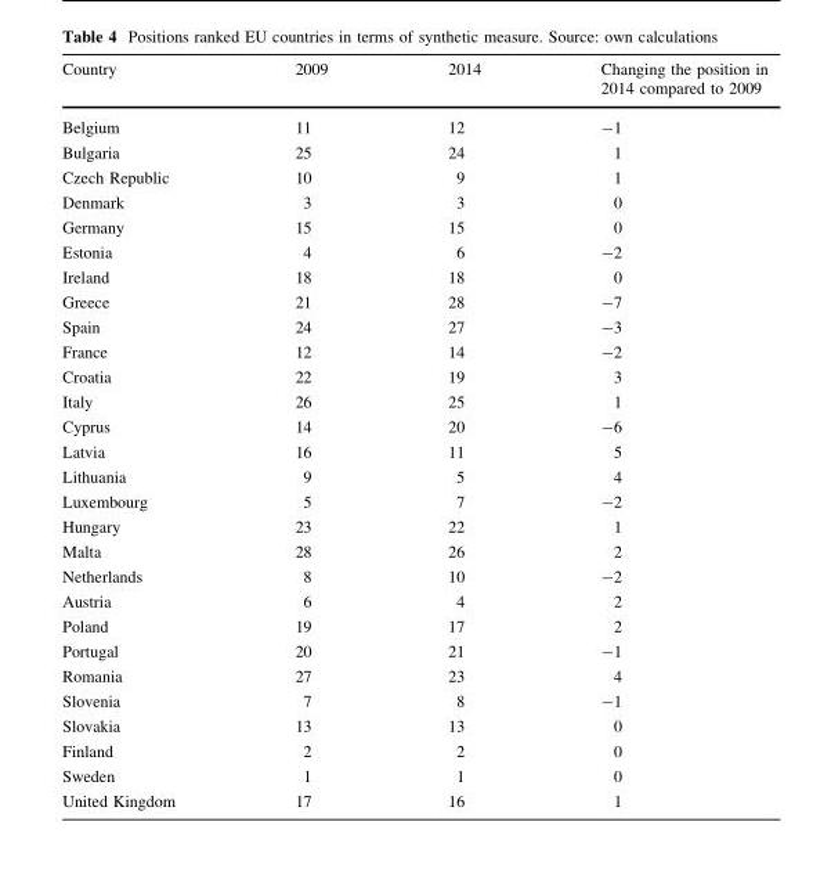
<table><thead><tr><td>Country</td><td>2009</td><td>2014</td><td>Changing the position in 2014 compared to 2009</td></tr></thead><tbody><tr><td>Belgium</td><td>11</td><td>12</td><td>-1</td></tr><tr><td>Bulgaria</td><td>25</td><td>24</td><td>1</td></tr><tr><td>Czech Republic</td><td>10</td><td>9</td><td>1</td></tr><tr><td>Denmark</td><td>3</td><td>3</td><td>0</td></tr><tr><td>Germany</td><td>15</td><td>15</td><td>0</td></tr><tr><td>Estonia</td><td>4</td><td>6</td><td>-2</td></tr><tr><td>Ireland</td><td>18</td><td>18</td><td>0</td></tr><tr><td>Greece</td><td>21</td><td>28</td><td>-7</td></tr><tr><td>Spain</td><td>24</td><td>27</td><td>-3</td></tr><tr><td>France</td><td>12</td><td>14</td><td>-2</td></tr><tr><td>Croatia</td><td>22</td><td>19</td><td>3</td></tr><tr><td>Italy</td><td>26</td><td>25</td><td>1</td></tr><tr><td>Cyprus</td><td>14</td><td>20</td><td>-6</td></tr><tr><td>Latvia</td><td>16</td><td>11</td><td>5</td></tr><tr><td>Lithuania</td><td>9</td><td>5</td><td>4</td></tr><tr><td>Luxembourg</td><td>5</td><td>7</td><td>-2</td></tr><tr><td>Hungary</td><td>23</td><td>22</td><td>1</td></tr><tr><td>Malta</td><td>28</td><td>26</td><td>2</td></tr><tr><td>Netherlands</td><td>8</td><td>10</td><td>-2</td></tr><tr><td>Austria</td><td>6</td><td>4</td><td>2</td></tr><tr><td>Poland</td><td>19</td><td>17</td><td>2</td></tr><tr><td>Portugal</td><td>20</td><td>21</td><td>-1</td></tr><tr><td>Romania</td><td>27</td><td>23</td><td>4</td></tr><tr><td>Slovenia</td><td>7</td><td>8</td><td>-1</td></tr><tr><td>Slovakia</td><td>13</td><td>13</td><td>0</td></tr><tr><td>Finland</td><td>2</td><td>2</td><td>0</td></tr><tr><td>Sweden</td><td>1</td><td>1</td><td>0</td></tr><tr><td>United Kingdom</td><td>17</td><td>16</td><td>1</td></tr></tbody></table>